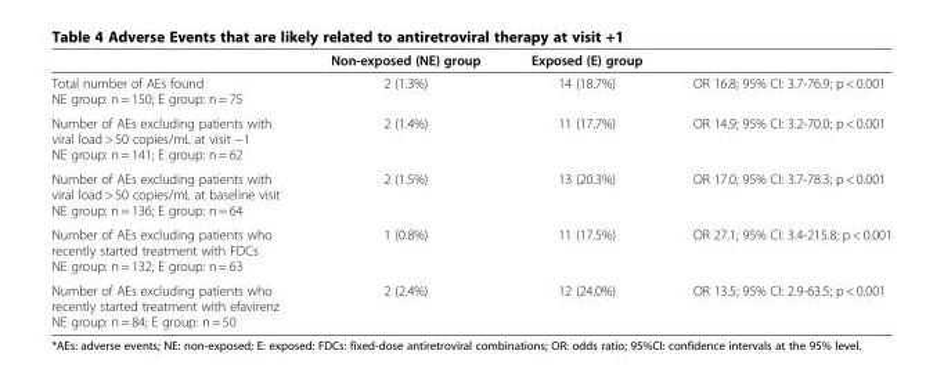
<table><thead><tr><td></td><td>Non-exposed (NE) group</td><td>Exposed (E) group</td><td></td></tr></thead><tbody><tr><td>Total number of AEs found NE group: n = 150; E group: n = 75</td><td>2 (1.3%)</td><td>14 (18.7%)</td><td>OR 16.8; 95% CI: 3.7-76.9; p &lt; 0.001</td></tr><tr><td>Number of AEs excluding patients with viral load &gt; 50 copies/mL at visit −1 NE group: n = 141; E group: n = 62</td><td>2 (1.4%)</td><td>11 (17.7%)</td><td>OR 14.9; 95% CI: 3.2-70.0; p &lt; 0.001</td></tr><tr><td>Number of AEs excluding patients with viral load &gt; 50 copies/mL at baseline visit NE group: n = 136; E group: n = 64</td><td>2 (1.5%)</td><td>13 (20.3%)</td><td>OR 17.0; 95% CI: 3.7-78.3; p &lt; 0.001</td></tr><tr><td>Number of AEs excluding patients who recently started treatment with FDCs NE group: n = 132; E group: n = 63</td><td>1 (0.8%)</td><td>11 (17.5%)</td><td>OR 27.1; 95% CI: 3.4-215.8; p &lt; 0.001</td></tr><tr><td>Number of AEs excluding patients who recently started treatment with efavirenz NE group: n = 84; E group: n = 50</td><td>2 (2.4%)</td><td>12 (24.0%)</td><td>OR 13.5; 95% CI: 2.9-63.5; p &lt; 0.001</td></tr></tbody></table>